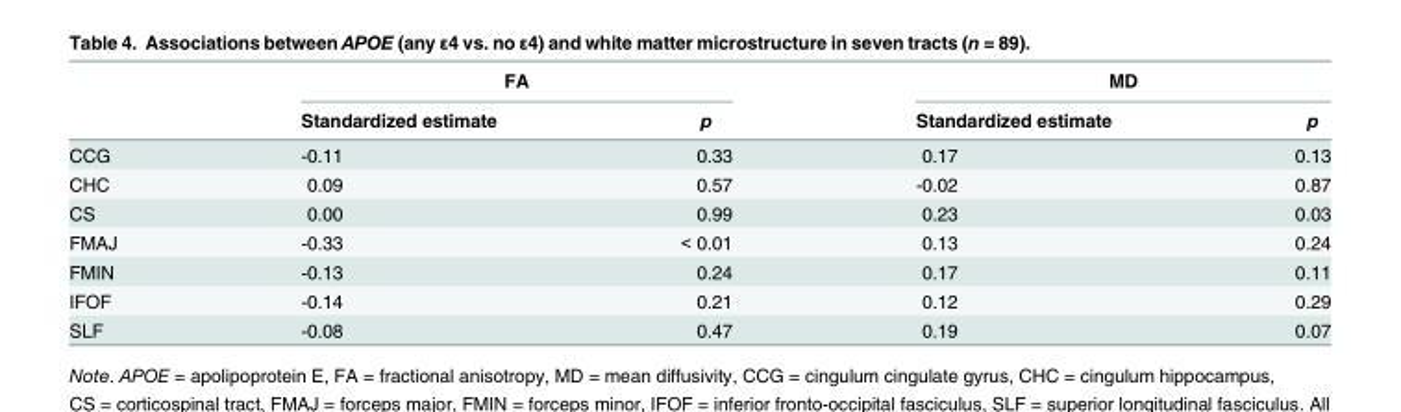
<table><thead><tr><td rowspan="2"></td><td colspan="2">FA</td><td colspan="2">MD</td></tr><tr><td>Standardized estimate</td><td>p</td><td>Standardized estimate</td><td>p</td></tr></thead><tbody><tr><td>CCG</td><td>-0.11</td><td>0.33</td><td>0.17</td><td>0.13</td></tr><tr><td>CHC</td><td>0.09</td><td>0.57</td><td>-0.02</td><td>0.87</td></tr><tr><td>CS</td><td>0.00</td><td>0.99</td><td>0.23</td><td>0.03</td></tr><tr><td>FMAJ</td><td>-0.33</td><td>&lt; 0.01</td><td>0.13</td><td>0.24</td></tr><tr><td>FMIN</td><td>-0.13</td><td>0.24</td><td>0.17</td><td>0.11</td></tr><tr><td>IFOF</td><td>-0.14</td><td>0.21</td><td>0.12</td><td>0.29</td></tr><tr><td>SLF</td><td>-0.08</td><td>0.47</td><td>0.19</td><td>0.07</td></tr></tbody></table>